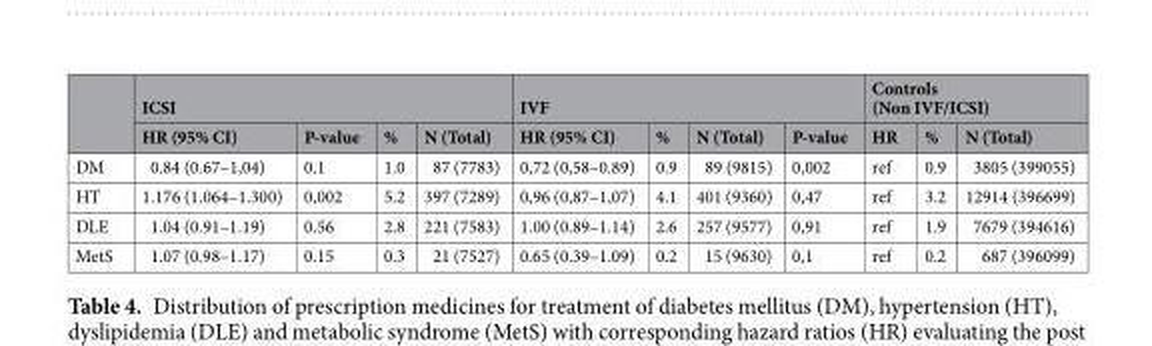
<table><thead><tr><td rowspan="2"></td><td colspan="4">ICSI</td><td colspan="4">IVF</td><td colspan="3">Controls (Non IVF/ICSI)</td></tr><tr><td>HR (95% CI)</td><td>P-value</td><td>%</td><td>N (Total)</td><td>HR (95% CI)</td><td>%</td><td>N (Total)</td><td>P-value</td><td>HR</td><td>%</td><td>N (Total)</td></tr></thead><tbody><tr><td>DM</td><td>0.84 (0.67–1,04)</td><td>0.1</td><td>1.0</td><td>87 (7783)</td><td>0,72 (0,58–0.89)</td><td>0.9</td><td>89 (9815)</td><td>0,002</td><td>ref</td><td>0.9</td><td>3805 (399055)</td></tr><tr><td>HT</td><td>1.176 (1.064–1.300)</td><td>0,002</td><td>5.2</td><td>397 (7289)</td><td>0,96 (0,87–1,07)</td><td>4.1</td><td>401 (9360)</td><td>0,47</td><td>ref</td><td>3.2</td><td>12914 (396699)</td></tr><tr><td>DLE</td><td>1.04 (0.91–1.19)</td><td>0.56</td><td>2.8</td><td>221 (7583)</td><td>1.00 (0.89–1.14)</td><td>2.6</td><td>257 (9577)</td><td>0,91</td><td>ref</td><td>1.9</td><td>7679 (394616)</td></tr><tr><td>MetS</td><td>1.07 (0.98–1.17)</td><td>0.15</td><td>0.3</td><td>21 (7527)</td><td>0.65 (0.39–1.09)</td><td>0.2</td><td>15 (9630)</td><td>0,1</td><td>ref</td><td>0.2</td><td>687 (396099)</td></tr></tbody></table>